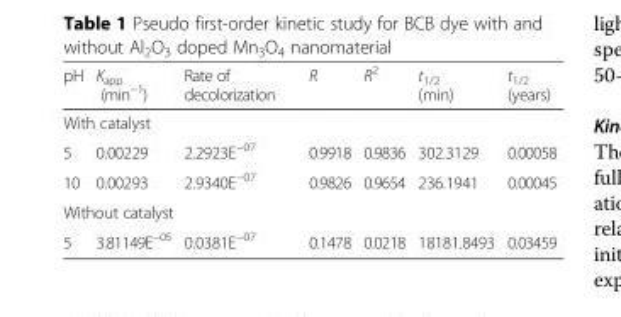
<table><thead><tr><td>pH</td><td>K<sub>app</sub> (min<sup>−1</sup>)</td><td>Rate of decolorization</td><td>R</td><td>R<sup>2</sup></td><td>t<sub>1/2</sub> (min)</td><td>t<sub>1/2</sub> (years)</td></tr></thead><tbody><tr><td colspan="7">With catalyst</td></tr><tr><td>5</td><td>0.00229</td><td>2.2923E<sup>−07</sup></td><td>0.9918</td><td>0.9836</td><td>302.3129</td><td>0.00058</td></tr><tr><td>10</td><td>0.00293</td><td>2.9340E<sup>−07</sup></td><td>0.9826</td><td>0.9654</td><td>236.1941</td><td>0.00045</td></tr><tr><td colspan="7">Without catalyst</td></tr><tr><td>5</td><td>3.81149E<sup>−05</sup></td><td>0.0381E<sup>−07</sup></td><td>0.1478</td><td>0.0218</td><td>18181.8493</td><td>0.03459</td></tr></tbody></table>